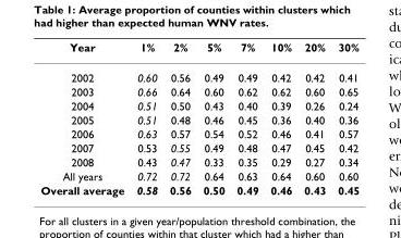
<table><thead><tr><td>Year</td><td>1%</td><td>2%</td><td>5%</td><td>7%</td><td>10%</td><td>20%</td><td>30%</td></tr></thead><tbody><tr><td>2002</td><td>0.60</td><td>0.56</td><td>0.49</td><td>0.49</td><td>0.42</td><td>0.42</td><td>0.41</td></tr><tr><td>2003</td><td>0.66</td><td>0.64</td><td>0.60</td><td>0.62</td><td>0.62</td><td>0.60</td><td>0.65</td></tr><tr><td>2004</td><td>0.51</td><td>0.50</td><td>0.43</td><td>0.40</td><td>0.39</td><td>0.26</td><td>0.24</td></tr><tr><td>2005</td><td>0.51</td><td>0.48</td><td>0.46</td><td>0.45</td><td>0.36</td><td>0.40</td><td>0.36</td></tr><tr><td>2006</td><td>0.63</td><td>0.57</td><td>0.54</td><td>0.52</td><td>0.46</td><td>0.41</td><td>0.57</td></tr><tr><td>2007</td><td>0.53</td><td>0.55</td><td>0.49</td><td>0.48</td><td>0.47</td><td>0.45</td><td>0.42</td></tr><tr><td>2008</td><td>0.43</td><td>0.47</td><td>0.33</td><td>0.35</td><td>0.29</td><td>0.27</td><td>0.34</td></tr><tr><td>All years</td><td>0.72</td><td>0.72</td><td>0.64</td><td>0.63</td><td>0.64</td><td>0.60</td><td>0.60</td></tr><tr><td>Overall average</td><td>0.58</td><td>0.56</td><td>0.50</td><td>0.49</td><td>0.46</td><td>0.43</td><td>0.45</td></tr></tbody></table>